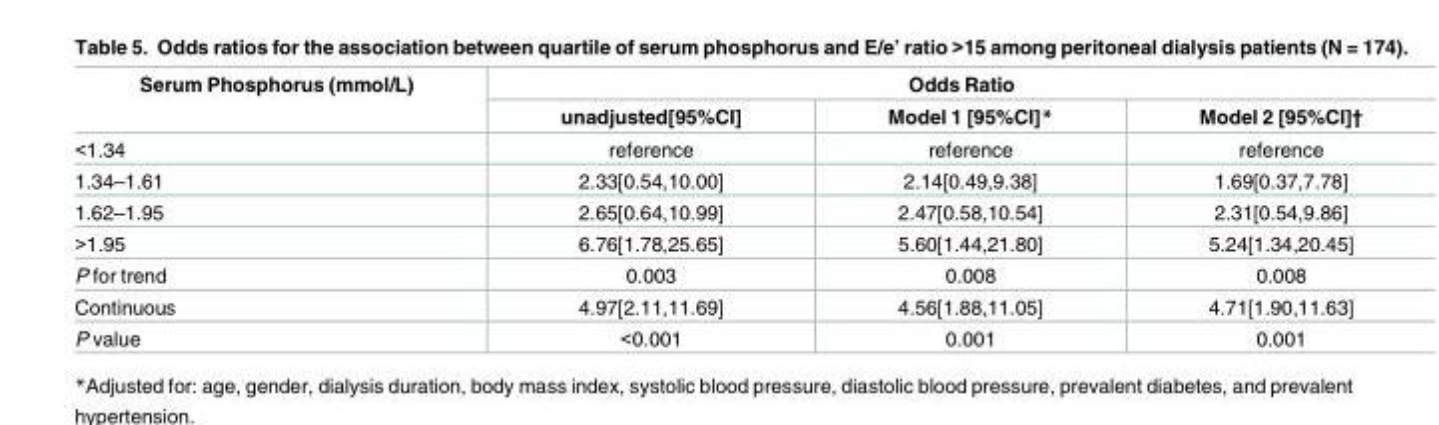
<table><thead><tr><td rowspan="2">Serum Phosphorus (mmol/L)</td><td colspan="3">Odds Ratio</td></tr><tr><td>unadjusted[95%CI]</td><td>Model 1 [95%CI]*</td><td>Model 2 [95%CI]†</td></tr></thead><tbody><tr><td>&lt;1.34</td><td>reference</td><td>reference</td><td>reference</td></tr><tr><td>1.34–1.61</td><td>2.33[0.54,10.00]</td><td>2.14[0.49,9.38]</td><td>1.69[0.37,7.78]</td></tr><tr><td>1.62–1.95</td><td>2.65[0.64,10.99]</td><td>2.47[0.58,10.54]</td><td>2.31[0.54,9.86]</td></tr><tr><td>&gt;1.95</td><td>6.76[1.78,25.65]</td><td>5.60[1.44,21.80]</td><td>5.24[1.34,20.45]</td></tr><tr><td>P for trend</td><td>0.003</td><td>0.008</td><td>0.008</td></tr><tr><td>Continuous</td><td>4.97[2.11,11.69]</td><td>4.56[1.88,11.05]</td><td>4.71[1.90,11.63]</td></tr><tr><td>P value</td><td>&lt;0.001</td><td>0.001</td><td>0.001</td></tr></tbody></table>